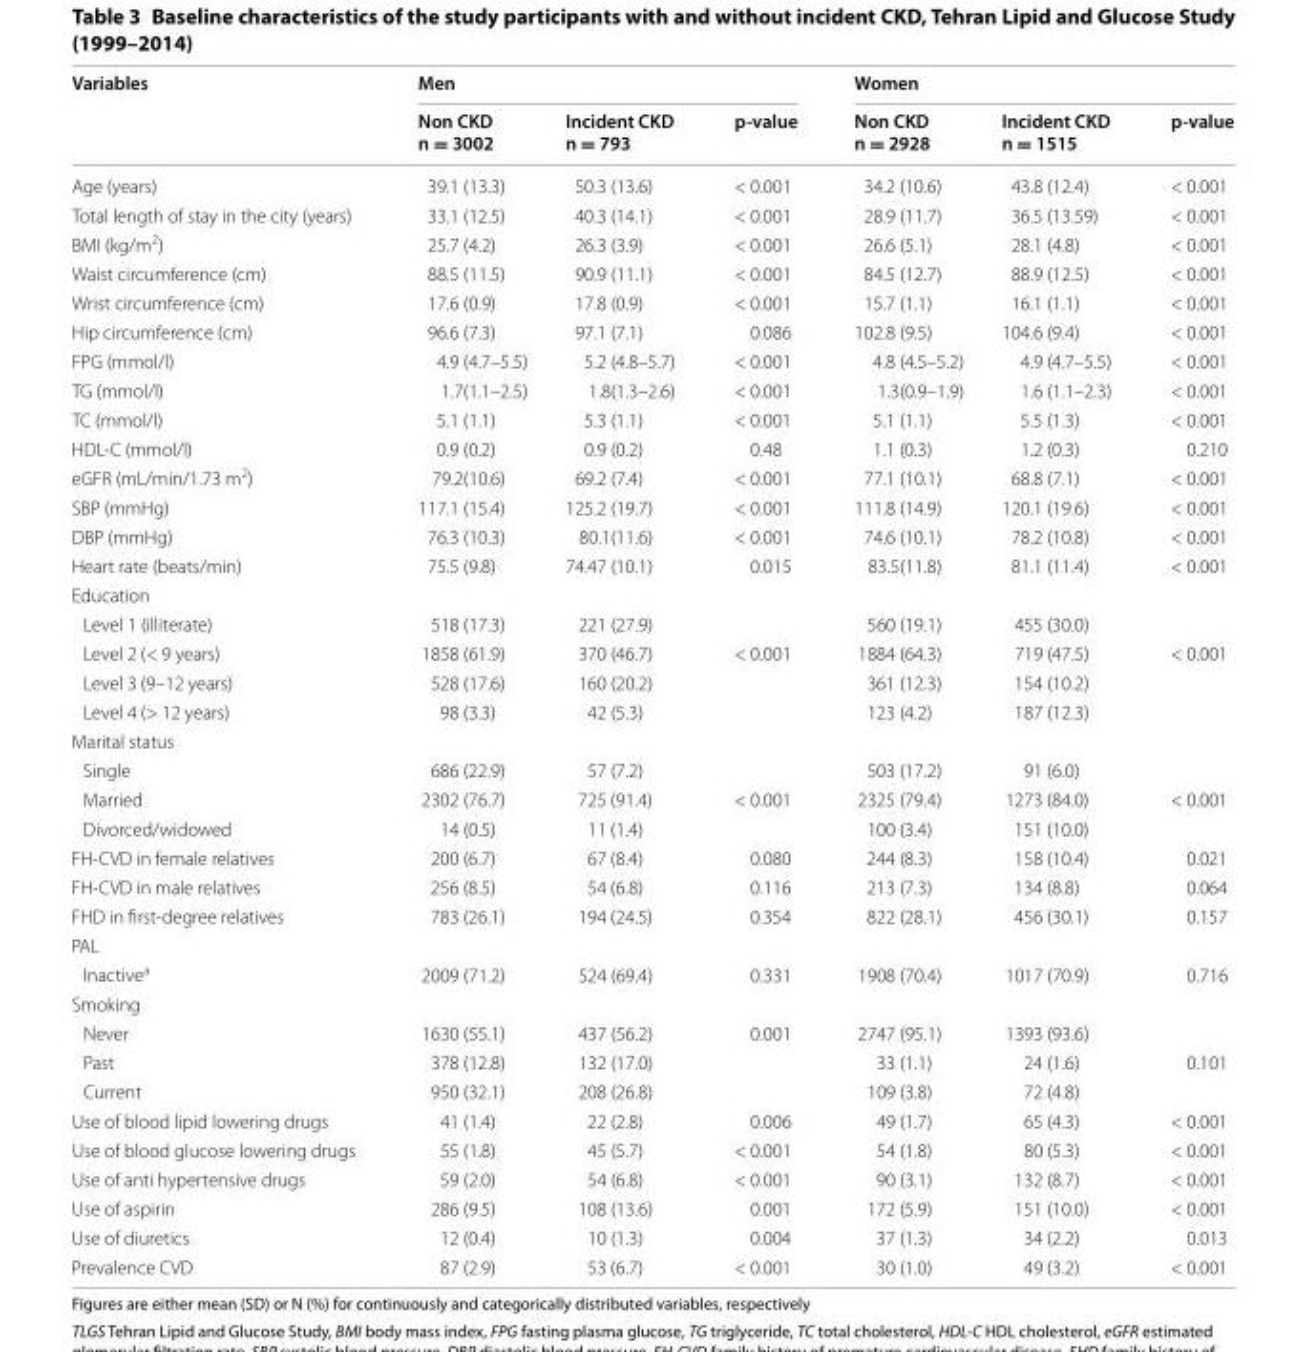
<table><thead><tr><td rowspan="2">Variables</td><td colspan="3">Men</td><td colspan="3">Women</td></tr><tr><td>Non CKD n = 3002</td><td>Incident CKD n = 793</td><td>p-value</td><td>Non CKD n = 2928</td><td>Incident CKD n = 1515</td><td>p-value</td></tr></thead><tbody><tr><td>Age (years)</td><td>39.1 (13.3)</td><td>50.3 (13.6)</td><td>&lt; 0.001</td><td>34.2 (10.6)</td><td>43.8 (12.4)</td><td>&lt; 0.001</td></tr><tr><td>Total length of stay in the city (years)</td><td>33.1 (12.5)</td><td>40.3 (14.1)</td><td>&lt; 0.001</td><td>28.9 (11.7)</td><td>36.5 (13.59)</td><td>&lt; 0.001</td></tr><tr><td>BMI (kg/m<sup>2</sup>)</td><td>25.7 (4.2)</td><td>26.3 (3.9)</td><td>&lt; 0.001</td><td>26.6 (5.1)</td><td>28.1 (4.8)</td><td>&lt; 0.001</td></tr><tr><td>Waist circumference (cm)</td><td>88.5 (11.5)</td><td>90.9 (11.1)</td><td>&lt; 0.001</td><td>84.5 (12.7)</td><td>88.9 (12.5)</td><td>&lt; 0.001</td></tr><tr><td>Wrist circumference (cm)</td><td>17.6 (0.9)</td><td>17.8 (0.9)</td><td>&lt; 0.001</td><td>15.7 (1.1)</td><td>16.1 (1.1)</td><td>&lt; 0.001</td></tr><tr><td>Hip circumference (cm)</td><td>96.6 (7.3)</td><td>97.1 (7.1)</td><td>0.086</td><td>102.8 (9.5)</td><td>104.6 (9.4)</td><td>&lt; 0.001</td></tr><tr><td>FPG (mmol/l)</td><td>4.9 (4.7–5.5)</td><td>5.2 (4.8–5.7)</td><td>&lt; 0.001</td><td>4.8 (4.5–5.2)</td><td>4.9 (4.7–5.5)</td><td>&lt; 0.001</td></tr><tr><td>TG (mmol/l)</td><td>1.7(1.1–2.5)</td><td>1.8(1.3–2.6)</td><td>&lt; 0.001</td><td>1.3(0.9–1.9)</td><td>1.6 (1.1–2.3)</td><td>&lt; 0.001</td></tr><tr><td>TC (mmol/l)</td><td>5.1 (1.1)</td><td>5.3 (1.1)</td><td>&lt; 0.001</td><td>5.1 (1.1)</td><td>5.5 (1.3)</td><td>&lt; 0.001</td></tr><tr><td>HDL-C (mmol/l)</td><td>0.9 (0.2)</td><td>0.9 (0.2)</td><td>0.48</td><td>1.1 (0.3)</td><td>1.2 (0.3)</td><td>0.210</td></tr><tr><td>eGFR (mL/min/1.73 m<sup>2</sup>)</td><td>79.2(10.6)</td><td>69.2 (7.4)</td><td>&lt; 0.001</td><td>77.1 (10.1)</td><td>68.8 (7.1)</td><td>&lt; 0.001</td></tr><tr><td>SBP (mmHg)</td><td>117.1 (15.4)</td><td>125.2 (19.7)</td><td>&lt; 0.001</td><td>111.8 (14.9)</td><td>120.1 (19.6)</td><td>&lt; 0.001</td></tr><tr><td>DBP (mmHg)</td><td>76.3 (10.3)</td><td>80.1(11.6)</td><td>&lt; 0.001</td><td>74.6 (10.1)</td><td>78.2 (10.8)</td><td>&lt; 0.001</td></tr><tr><td>Heart rate (beats/min)</td><td>75.5 (9.8)</td><td>74.47 (10.1)</td><td>0.015</td><td>83.5(11.8)</td><td>81.1 (11.4)</td><td>&lt; 0.001</td></tr><tr><td colspan="7">Education</td></tr><tr><td>Level 1 (illiterate)</td><td>518 (17.3)</td><td>221 (27.9)</td><td></td><td>560 (19.1)</td><td>455 (30.0)</td><td></td></tr><tr><td>Level 2 (&lt; 9 years)</td><td>1858 (61.9)</td><td>370 (46.7)</td><td>&lt; 0.001</td><td>1884 (64.3)</td><td>719 (47.5)</td><td>&lt; 0.001</td></tr><tr><td>Level 3 (9–12 years)</td><td>528 (17.6)</td><td>160 (20.2)</td><td></td><td>361 (12.3)</td><td>154 (10.2)</td><td></td></tr><tr><td>Level 4 (&gt; 12 years)</td><td>98 (3.3)</td><td>42 (5.3)</td><td></td><td>123 (4.2)</td><td>187 (12.3)</td><td></td></tr><tr><td colspan="7">Marital status</td></tr><tr><td>Single</td><td>686 (22.9)</td><td>57 (7.2)</td><td></td><td>503 (17.2)</td><td>91 (6.0)</td><td></td></tr><tr><td>Married</td><td>2302 (76.7)</td><td>725 (91.4)</td><td>&lt; 0.001</td><td>2325 (79.4)</td><td>1273 (84.0)</td><td>&lt; 0.001</td></tr><tr><td>Divorced/widowed</td><td>14 (0.5)</td><td>11 (1.4)</td><td></td><td>100 (3.4)</td><td>151 (10.0)</td><td></td></tr><tr><td>FH-CVD in female relatives</td><td>200 (6.7)</td><td>67 (8.4)</td><td>0.080</td><td>244 (8.3)</td><td>158 (10.4)</td><td>0.021</td></tr><tr><td>FH-CVD in male relatives</td><td>256 (8.5)</td><td>54 (6.8)</td><td>0.116</td><td>213 (7.3)</td><td>134 (8.8)</td><td>0.064</td></tr><tr><td>FHD in first-degree relatives</td><td>783 (26.1)</td><td>194 (24.5)</td><td>0.354</td><td>822 (28.1)</td><td>456 (30.1)</td><td>0.157</td></tr><tr><td colspan="7">PAL</td></tr><tr><td>Inactive<sup>a</sup></td><td>2009 (71.2)</td><td>524 (69.4)</td><td>0.331</td><td>1908 (70.4)</td><td>1017 (70.9)</td><td>0.716</td></tr><tr><td colspan="7">Smoking</td></tr><tr><td>Never</td><td>1630 (55.1)</td><td>437 (56.2)</td><td rowspan="3">0.001</td><td>2747 (95.1)</td><td>1393 (93.6)</td><td></td></tr><tr><td>Past</td><td>378 (12.8)</td><td>132 (17.0)</td><td>33 (1.1)</td><td>24 (1.6)</td><td>0.101</td></tr><tr><td>Current</td><td>950 (32.1)</td><td>208 (26.8)</td><td>109 (3.8)</td><td>72 (4.8)</td><td></td></tr><tr><td>Use of blood lipid lowering drugs</td><td>41 (1.4)</td><td>22 (2.8)</td><td>0.006</td><td>49 (1.7)</td><td>65 (4.3)</td><td>&lt; 0.001</td></tr><tr><td>Use of blood glucose lowering drugs</td><td>55 (1.8)</td><td>45 (5.7)</td><td>&lt; 0.001</td><td>54 (1.8)</td><td>80 (5.3)</td><td>&lt; 0.001</td></tr><tr><td>Use of anti hypertensive drugs</td><td>59 (2.0)</td><td>54 (6.8)</td><td>&lt; 0.001</td><td>90 (3.1)</td><td>132 (8.7)</td><td>&lt; 0.001</td></tr><tr><td>Use of aspirin</td><td>286 (9.5)</td><td>108 (13.6)</td><td>0.001</td><td>172 (5.9)</td><td>151 (10.0)</td><td>&lt; 0.001</td></tr><tr><td>Use of diuretics</td><td>12 (0.4)</td><td>10 (1.3)</td><td>0.004</td><td>37 (1.3)</td><td>34 (2.2)</td><td>0.013</td></tr><tr><td>Prevalence CVD</td><td>87 (2.9)</td><td>53 (6.7)</td><td>&lt; 0.001</td><td>30 (1.0)</td><td>49 (3.2)</td><td>&lt; 0.001</td></tr></tbody></table>